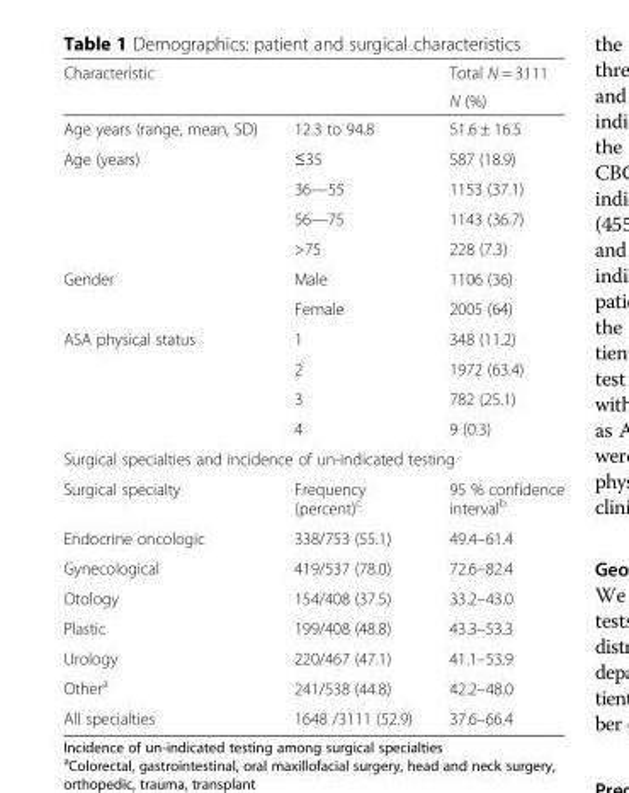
<table><thead><tr><td rowspan="2" colspan="2">Characteristic</td><td rowspan="3">Total N = 3111 N (%) 51.6 ± 16.5</td></tr><tr></tr><tr><td>Age years (range, mean, SD)</td><td>12.3 to 94.8</td></tr></thead><tbody><tr><td rowspan="4">Age (years)</td><td>≤35</td><td>587 (18.9)</td></tr><tr><td>36—55</td><td>1153 (37.1)</td></tr><tr><td>56—75</td><td>1143 (36.7)</td></tr><tr><td>&gt;75</td><td>228 (7.3)</td></tr><tr><td rowspan="2">Gender</td><td>Male</td><td>1106 (36)</td></tr><tr><td>Female</td><td>2005 (64)</td></tr><tr><td rowspan="4">ASA physical status</td><td>1</td><td>348 (11.2)</td></tr><tr><td>2</td><td>1972 (63.4)</td></tr><tr><td>3</td><td>782 (25.1)</td></tr><tr><td>4</td><td>9 (0.3)</td></tr><tr><td colspan="3">Surgical specialties and incidence of un-indicated testing</td></tr><tr><td>Surgical specialty</td><td>Frequency (percent)<sup>c</sup></td><td>95 % confidence interval<sup>b</sup></td></tr><tr><td>Endocrine oncologic</td><td>338/753 (55.1)</td><td>49.4–61.4</td></tr><tr><td>Gynecological</td><td>419/537 (78.0)</td><td>72.6–82.4</td></tr><tr><td>Otology</td><td>154/408 (37.5)</td><td>33.2–43.0</td></tr><tr><td>Plastic</td><td>199/408 (48.8)</td><td>43.3–53.3</td></tr><tr><td>Urology</td><td>220/467 (47.1)</td><td>41.1–53.9</td></tr><tr><td>Other<sup>a</sup></td><td>241/538 (44.8)</td><td>42.2–48.0</td></tr><tr><td>All specialties</td><td>1648 /3111 (52.9)</td><td>37.6–66.4</td></tr></tbody></table>